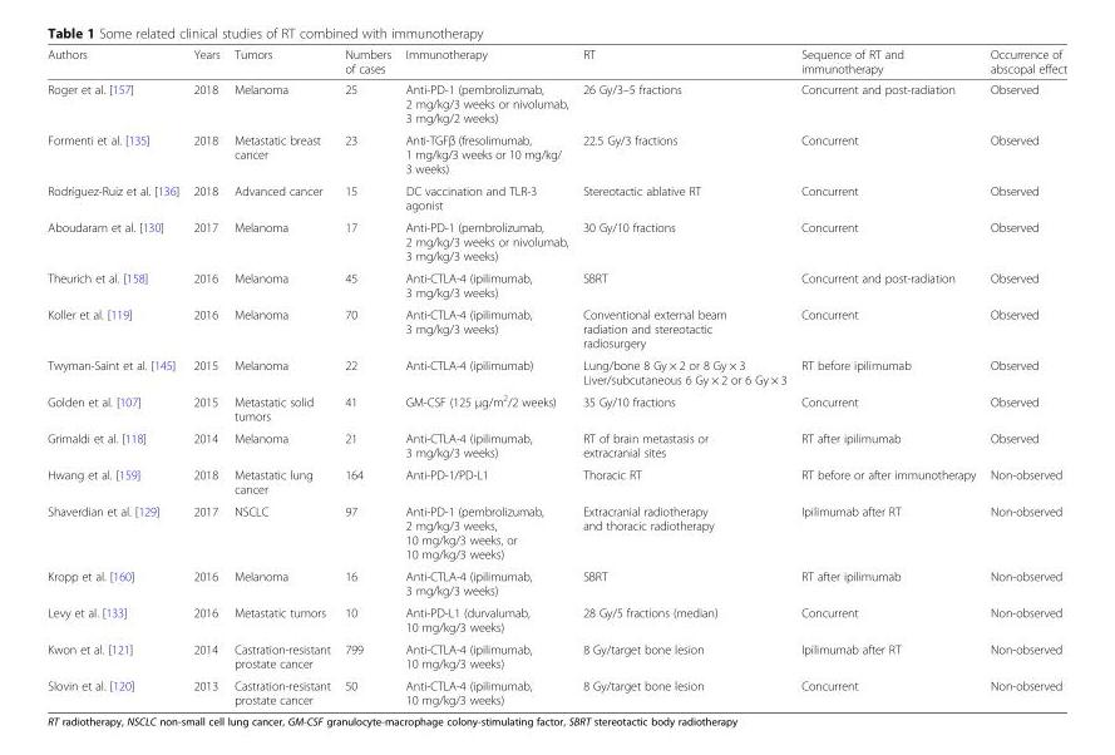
<table><thead><tr><td>Authors</td><td>Years</td><td>Tumors</td><td>Numbers of cases</td><td>Immunotherapy</td><td>RT</td><td>Sequence of RT and immunotherapy</td><td>Occurrence of abscopal effect</td></tr></thead><tbody><tr><td>Roger et al. [157]</td><td>2018</td><td>Melanoma</td><td>25</td><td>Anti-PD-1 (pembrolizumab, 2 mg/kg/3 weeks or nivolumab, 3 mg/kg/2 weeks)</td><td>26 Gy/3–5 fractions</td><td>Concurrent and post-radiation</td><td>Observed</td></tr><tr><td>Formenti et al. [135]</td><td>2018</td><td>Metastatic breast cancer</td><td>23</td><td>Anti-TGFβ (fresolimumab, 1 mg/kg/3 weeks or 10 mg/kg/ 3 weeks)</td><td>22.5 Gy/3 fractions</td><td>Concurrent</td><td>Observed</td></tr><tr><td>Rodríguez-Ruiz et al. [136]</td><td>2018</td><td>Advanced cancer</td><td>15</td><td>DC vaccination and TLR-3 agonist</td><td>Stereotactic ablative RT</td><td>Concurrent</td><td>Observed</td></tr><tr><td>Aboudaram et al. [130]</td><td>2017</td><td>Melanoma</td><td>17</td><td>Anti-PD-1 (pembrolizumab, 2 mg/kg/3 weeks or nivolumab, 3 mg/kg/3 weeks)</td><td>30 Gy/10 fractions</td><td>Concurrent</td><td>Observed</td></tr><tr><td>Theurich et al. [158]</td><td>2016</td><td>Melanoma</td><td>45</td><td>Anti-CTLA-4 (ipilimumab, 3 mg/kg/3 weeks)</td><td>SBRT</td><td>Concurrent and post-radiation</td><td>Observed</td></tr><tr><td>Koller et al. [119]</td><td>2016</td><td>Melanoma</td><td>70</td><td>Anti-CTLA-4 (ipilimumab, 3 mg/kg/3 weeks)</td><td>Conventional external beam radiation and stereotactic radiosurgery</td><td>Concurrent</td><td>Observed</td></tr><tr><td>Twyman-Saint et al. [145]</td><td>2015</td><td>Melanoma</td><td>22</td><td>Anti-CTLA-4 (ipilimumab)</td><td>Lung/bone 8 Gy × 2 or 8 Gy × 3 Liver/subcutaneous 6 Gy × 2 or 6 Gy × 3</td><td>RT before ipilimumab</td><td>Observed</td></tr><tr><td>Golden et al. [107]</td><td>2015</td><td>Metastatic solid tumors</td><td>41</td><td>GM-CSF (125 μg/m<sup>2</sup>/2 weeks)</td><td>35 Gy/10 fractions</td><td>Concurrent</td><td>Observed</td></tr><tr><td>Grimaldi et al. [118]</td><td>2014</td><td>Melanoma</td><td>21</td><td>Anti-CTLA-4 (ipilimumab, 3 mg/kg/3 weeks)</td><td>RT of brain metastasis or extracranial sites</td><td>RT after ipilimumab</td><td>Observed</td></tr><tr><td>Hwang et al. [159]</td><td>2018</td><td>Metastatic lung cancer</td><td>164</td><td>Anti-PD-1/PD-L1</td><td>Thoracic RT</td><td>RT before or after immunotherapy</td><td>Non-observed</td></tr><tr><td>Shaverdian et al. [129]</td><td>2017</td><td>NSCLC</td><td>97</td><td>Anti-PD-1 (pembrolizumab, 2 mg/kg/3 weeks, 10 mg/kg/3 weeks, or 10 mg/kg/3 weeks)</td><td>Extracranial radiotherapy and thoracic radiotherapy</td><td>Ipilimumab after RT</td><td>Non-observed</td></tr><tr><td>Kropp et al. [160]</td><td>2016</td><td>Melanoma</td><td>16</td><td>Anti-CTLA-4 (ipilimumab, 3 mg/kg/3 weeks)</td><td>SBRT</td><td>RT after ipilimumab</td><td>Non-observed</td></tr><tr><td>Levy et al. [133]</td><td>2016</td><td>Metastatic tumors</td><td>10</td><td>Anti-PD-L1 (durvalumab, 10 mg/kg/3 weeks)</td><td>28 Gy/5 fractions (median)</td><td>Concurrent</td><td>Non-observed</td></tr><tr><td>Kwon et al. [121]</td><td>2014</td><td>Castration-resistant prostate cancer</td><td>799</td><td>Anti-CTLA-4 (ipilimumab, 10 mg/kg/3 weeks)</td><td>8 Gy/target bone lesion</td><td>Ipilimumab after RT</td><td>Non-observed</td></tr><tr><td>Slovin et al. [120]</td><td>2013</td><td>Castration-resistant prostate cancer</td><td>50</td><td>Anti-CTLA-4 (ipilimumab, 10 mg/kg/3 weeks)</td><td>8 Gy/target bone lesion</td><td>Concurrent</td><td>Non-observed</td></tr></tbody></table>